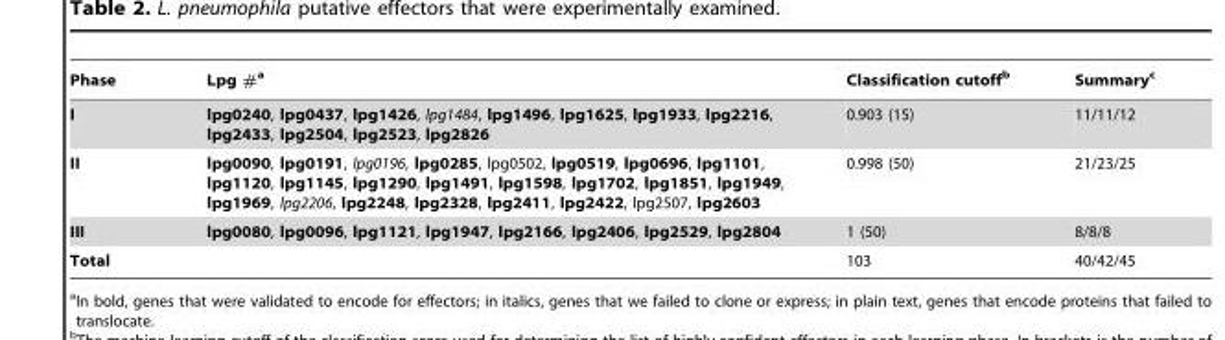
<table><thead><tr><td>Phase</td><td>Lpg #<sup>a</sup></td><td>Classification cutoff<sup>b</sup></td><td>Summary<sup>c</sup></td></tr></thead><tbody><tr><td>I</td><td>lpg0240, lpg0437, lpg1426, lpg1484, lpg1496, lpg1625, lpg1933, lpg2216, lpg2433, lpg2504, lpg2523, lpg2826</td><td>0.903 (15)</td><td>11/11/12</td></tr><tr><td>II</td><td>lpg0090, lpg0191, lpg0196, lpg0285, lpg0502, lpg0519, lpg0696, lpg1101, lpg1120, lpg1145, lpg1290, lpg1491, lpg1598, lpg1702, lpg1851, lpg1949, lpg1969, lpg2206, lpg2248, lpg2328, lpg2411, lpg2422, lpg2507, lpg2603</td><td>0.998 (50)</td><td>21/23/25</td></tr><tr><td>III</td><td>lpg0080, lpg0096, lpg1121, lpg1947, lpg2166, lpg2406, lpg2529, lpg2804</td><td>1 (50)</td><td>8/8/8</td></tr><tr><td>Total</td><td></td><td>103</td><td>40/42/45</td></tr></tbody></table>